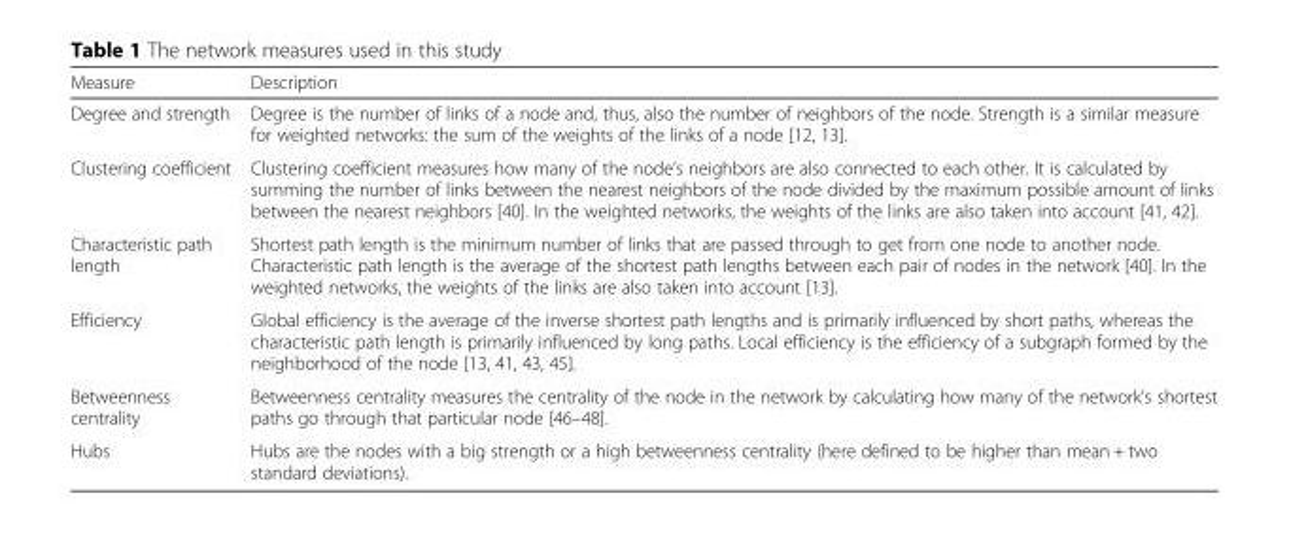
<table><thead><tr><td>Measure</td><td>Description</td></tr></thead><tbody><tr><td>Degree and strength</td><td>Degree is the number of links of a node and, thus, also the number of neighbors of the node. Strength is a similar measure for weighted networks: the sum of the weights of the links of a node [12, 13].</td></tr><tr><td>Clustering coefficient</td><td>Clustering coefficient measures how many of the node’s neighbors are also connected to each other. It is calculated by summing the number of links between the nearest neighbors of the node divided by the maximum possible amount of links between the nearest neighbors [40]. In the weighted networks, the weights of the links are also taken into account [41, 42].</td></tr><tr><td>Characteristic path length</td><td>Shortest path length is the minimum number of links that are passed through to get from one node to another node. Characteristic path length is the average of the shortest path lengths between each pair of nodes in the network [40]. In the weighted networks, the weights of the links are also taken into account [13].</td></tr><tr><td>Efficiency</td><td>Global efficiency is the average of the inverse shortest path lengths and is primarily influenced by short paths, whereas the characteristic path length is primarily influenced by long paths. Local efficiency is the efficiency of a subgraph formed by the neighborhood of the node [13, 41, 43, 45].</td></tr><tr><td>Betweenness centrality</td><td>Betweenness centrality measures the centrality of the node in the network by calculating how many of the network’s shortest paths go through that particular node [46–48].</td></tr><tr><td>Hubs</td><td>Hubs are the nodes with a big strength or a high betweenness centrality (here defined to be higher than mean + two standard deviations).</td></tr></tbody></table>